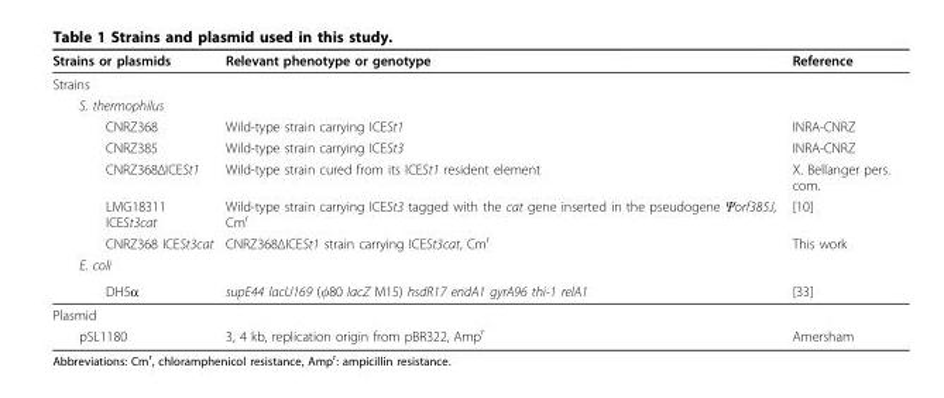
<table><thead><tr><td>Strains or plasmids</td><td>Relevant phenotype or genotype</td><td>Reference</td></tr></thead><tbody><tr><td colspan="3">Strains</td></tr><tr><td colspan="3">S. thermophilus</td></tr><tr><td>CNRZ368</td><td>Wild-type strain carrying ICESt1</td><td>INRA-CNRZ</td></tr><tr><td>CNRZ385</td><td>Wild-type strain carrying ICESt3</td><td>INRA-CNRZ</td></tr><tr><td>CNRZ368ΔICESt1</td><td>Wild-type strain cured from its ICESt1 resident element</td><td>X. Bellanger pers. com.</td></tr><tr><td>LMG18311 ICESt3cat</td><td>Wild-type strain carrying ICESt3 tagged with the cat gene inserted in the pseudogene Ψorf385J, Cm<sup>r</sup></td><td>[10]</td></tr><tr><td>CNRZ368 ICESt3cat</td><td>CNRZ368ΔICESt1 strain carrying ICESt3cat, Cm<sup>r</sup></td><td>This work</td></tr><tr><td colspan="3">E. coli</td></tr><tr><td>DH5α</td><td>supE44 lacU169 (φ80 lacZ M15) hsdR17 endA1 gyrA96 thi-1 relA1</td><td>[33]</td></tr><tr><td colspan="3">Plasmid</td></tr><tr><td>pSL1180</td><td>3, 4 kb, replication origin from pBR322, Amp<sup>r</sup></td><td>Amersham</td></tr></tbody></table>